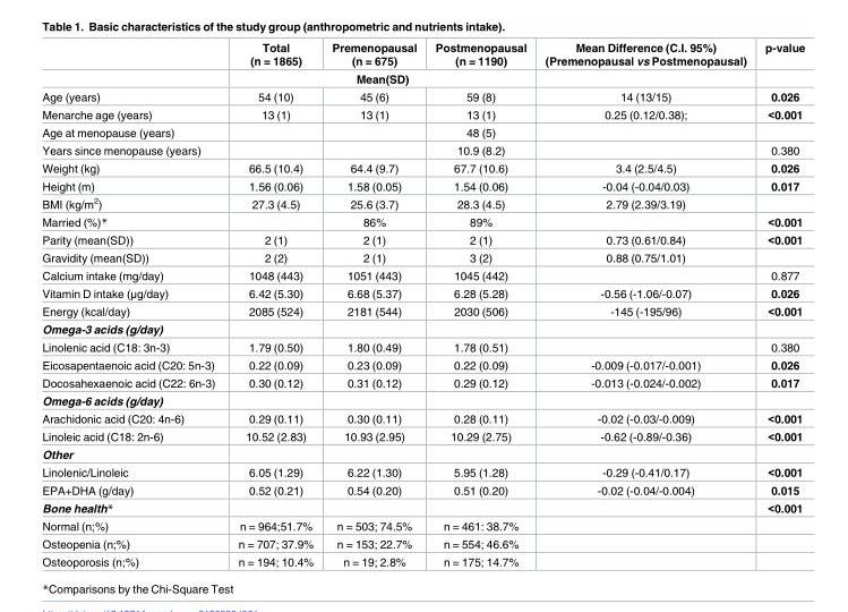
<table><thead><tr><td rowspan="2"></td><td>Total (n = 1865)</td><td>Premenopausal (n = 675)</td><td>Postmenopausal (n = 1190)</td><td rowspan="2">Mean Difference (C.I. 95%) (Premenopausal vs Postmenopausal)</td><td rowspan="2">p-value</td></tr><tr><td colspan="3">Mean(SD)</td></tr></thead><tbody><tr><td>Age (years)</td><td>54 (10)</td><td>45 (6)</td><td>59 (8)</td><td>14 (13/15)</td><td>0.026</td></tr><tr><td>Menarche age (years)</td><td>13 (1)</td><td>13 (1)</td><td>13 (1)</td><td>0.25 (0.12/0.38);</td><td>&lt;0.001</td></tr><tr><td>Age at menopause (years)</td><td></td><td></td><td>48 (5)</td><td></td><td></td></tr><tr><td>Years since menopause (years)</td><td></td><td></td><td>10.9 (8.2)</td><td></td><td>0.380</td></tr><tr><td>Weight (kg)</td><td>66.5 (10.4)</td><td>64.4 (9.7)</td><td>67.7 (10.6)</td><td>3.4 (2.5/4.5)</td><td>0.026</td></tr><tr><td>Height (m)</td><td>1.56 (0.06)</td><td>1.58 (0.05)</td><td>1.54 (0.06)</td><td>-0.04 (-0.04/0.03)</td><td>0.017</td></tr><tr><td>BMI (kg/m<sup>2</sup>)</td><td>27.3 (4.5)</td><td>25.6 (3.7)</td><td>28.3 (4.5)</td><td>2.79 (2.39/3.19)</td><td></td></tr><tr><td>Married (%)*</td><td></td><td>86%</td><td>89%</td><td></td><td>&lt;0.001</td></tr><tr><td>Parity (mean(SD))</td><td>2 (1)</td><td>2 (1)</td><td>2 (1)</td><td>0.73 (0.61/0.84)</td><td>&lt;0.001</td></tr><tr><td>Gravidity (mean(SD))</td><td>2 (2)</td><td>2 (1)</td><td>3 (2)</td><td>0.88 (0.75/1.01)</td><td></td></tr><tr><td>Calcium intake (mg/day)</td><td>1048 (443)</td><td>1051 (443)</td><td>1045 (442)</td><td></td><td>0.877</td></tr><tr><td>Vitamin D intake (μg/day)</td><td>6.42 (5.30)</td><td>6.68 (5.37)</td><td>6.28 (5.28)</td><td>-0.56 (-1.06/-0.07)</td><td>0.026</td></tr><tr><td>Energy (kcal/day)</td><td>2085 (524)</td><td>2181 (544)</td><td>2030 (506)</td><td>-145 (-195/96)</td><td>&lt;0.001</td></tr><tr><td colspan="6">Omega-3 acids (g/day)</td></tr><tr><td>Linolenic acid (C18: 3n-3)</td><td>1.79 (0.50)</td><td>1.80 (0.49)</td><td>1.78 (0.51)</td><td></td><td>0.380</td></tr><tr><td>Eicosapentaenoic acid (C20: 5n-3)</td><td>0.22 (0.09)</td><td>0.23 (0.09)</td><td>0.22 (0.09)</td><td>-0.009 (-0.017/-0.001)</td><td>0.026</td></tr><tr><td>Docosahexaenoic acid (C22: 6n-3)</td><td>0.30 (0.12)</td><td>0.31 (0.12)</td><td>0.29 (0.12)</td><td>-0.013 (-0.024/-0.002)</td><td>0.017</td></tr><tr><td colspan="6">Omega-6 acids (g/day)</td></tr><tr><td>Arachidonic acid (C20: 4n-6)</td><td>0.29 (0.11)</td><td>0.30 (0.11)</td><td>0.28 (0.11)</td><td>-0.02 (-0.03/-0.009)</td><td>&lt;0.001</td></tr><tr><td>Linoleic acid (C18: 2n-6)</td><td>10.52 (2.83)</td><td>10.93 (2.95)</td><td>10.29 (2.75)</td><td>-0.62 (-0.89/-0.36)</td><td>&lt;0.001</td></tr><tr><td colspan="6">Other</td></tr><tr><td>Linolenic/Linoleic</td><td>6.05 (1.29)</td><td>6.22 (1.30)</td><td>5.95 (1.28)</td><td>-0.29 (-0.41/0.17)</td><td>&lt;0.001</td></tr><tr><td>EPA+DHA (g/day)</td><td>0.52 (0.21)</td><td>0.54 (0.20)</td><td>0.51 (0.20)</td><td>-0.02 (-0.04/-0.004)</td><td>0.015</td></tr><tr><td>Bone health*</td><td></td><td></td><td></td><td></td><td>&lt;0.001</td></tr><tr><td>Normal (n;%)</td><td>n = 964;51.7%</td><td>n = 503; 74.5%</td><td>n = 461: 38.7%</td><td></td><td></td></tr><tr><td>Osteopenia (n;%)</td><td>n = 707; 37.9%</td><td>n = 153; 22.7%</td><td>n = 554; 46.6%</td><td></td><td></td></tr><tr><td>Osteoporosis (n;%)</td><td>n = 194; 10.4%</td><td>n = 19; 2.8%</td><td>n = 175; 14.7%</td><td></td><td></td></tr></tbody></table>